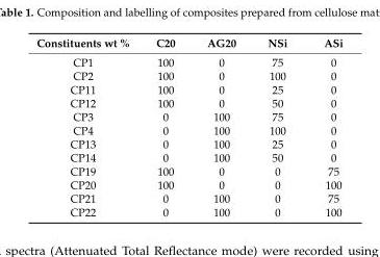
<table><thead><tr><td>Constituents wt %</td><td>C20</td><td>AG20</td><td>NSi</td><td>ASi</td></tr></thead><tbody><tr><td>CP1</td><td>100</td><td>0</td><td>75</td><td>0</td></tr><tr><td>CP2</td><td>100</td><td>0</td><td>100</td><td>0</td></tr><tr><td>CP11</td><td>100</td><td>0</td><td>25</td><td>0</td></tr><tr><td>CP12</td><td>100</td><td>0</td><td>50</td><td>0</td></tr><tr><td>CP3</td><td>0</td><td>100</td><td>75</td><td>0</td></tr><tr><td>CP4</td><td>0</td><td>100</td><td>100</td><td>0</td></tr><tr><td>CP13</td><td>0</td><td>100</td><td>25</td><td>0</td></tr><tr><td>CP14</td><td>0</td><td>100</td><td>50</td><td>0</td></tr><tr><td>CP19</td><td>100</td><td>0</td><td>0</td><td>75</td></tr><tr><td>CP20</td><td>100</td><td>0</td><td>0</td><td>100</td></tr><tr><td>CP21</td><td>0</td><td>100</td><td>0</td><td>75</td></tr><tr><td>CP22</td><td>0</td><td>100</td><td>0</td><td>100</td></tr></tbody></table>